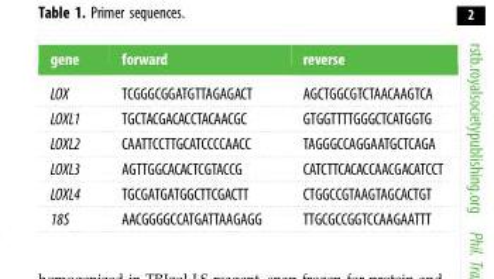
<table><thead><tr><td>gene</td><td>forward</td><td>reverse</td></tr></thead><tbody><tr><td>LOX</td><td>TCGGGCGGATGTTAGAGACT</td><td>AGCTGGCGTCTAACAAGTCA</td></tr><tr><td>LOXL1</td><td>TGCTACGACACCTACAACGC</td><td>GTGGTTTTGGGCTCATGGTG</td></tr><tr><td>LOXL2</td><td>CAATTCCTTGCATCCCCAACC</td><td>TAGGGCCAGGAATGCTCAGA</td></tr><tr><td>LOXL3</td><td>AGTTGGCACACTCGTACCG</td><td>CATCTTCACACCAACGACATCCT</td></tr><tr><td>LOXL4</td><td>TGCGATGATGGCTTCGACTT</td><td>CTGGCCGTAAGTAGCACTGT</td></tr><tr><td>18S</td><td>AACGGGGCCATGATTAAGAGG</td><td>TTGCGCCGGTCCAAGAATTT</td></tr></tbody></table>